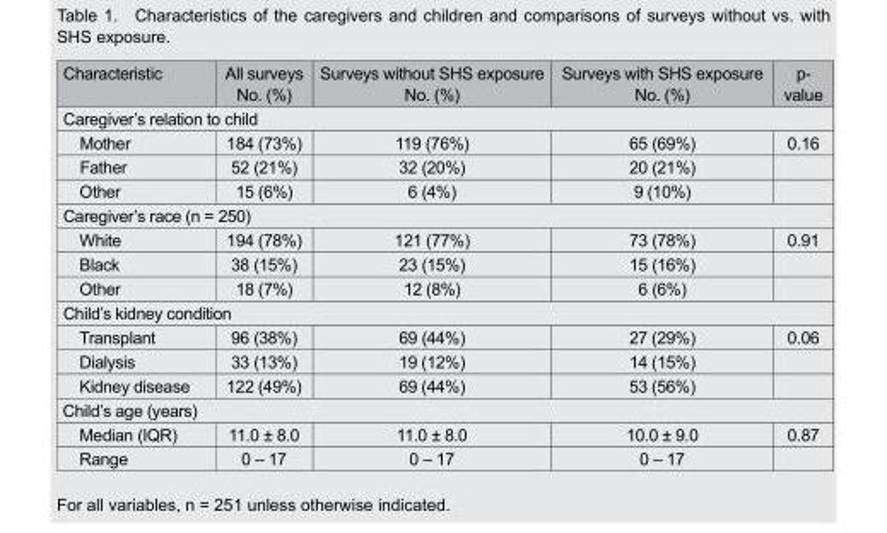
<table><thead><tr><td>Characteristic</td><td>All surveys No. (%)</td><td>Surveys without SHS exposure No. (%)</td><td>Surveys with SHS exposure No. (%)</td><td>p- value</td></tr></thead><tbody><tr><td colspan="5">Caregiver’s relation to child</td></tr><tr><td>Mother</td><td>184 (73%)</td><td>119 (76%)</td><td>65 (69%)</td><td>0.16</td></tr><tr><td>Father</td><td>52 (21%)</td><td>32 (20%)</td><td>20 (21%)</td><td></td></tr><tr><td>Other</td><td>15 (6%)</td><td>6 (4%)</td><td>9 (10%)</td><td></td></tr><tr><td colspan="5">Caregiver’s race (n = 250)</td></tr><tr><td>White</td><td>194 (78%)</td><td>121 (77%)</td><td>73 (78%)</td><td>0.91</td></tr><tr><td>Black</td><td>38 (15%)</td><td>23 (15%)</td><td>15 (16%)</td><td></td></tr><tr><td>Other</td><td>18 (7%)</td><td>12 (8%)</td><td>6 (6%)</td><td></td></tr><tr><td colspan="5">Child’s kidney condition</td></tr><tr><td>Transplant</td><td>96 (38%)</td><td>69 (44%)</td><td>27 (29%)</td><td>0.06</td></tr><tr><td>Dialysis</td><td>33 (13%)</td><td>19 (12%)</td><td>14 (15%)</td><td></td></tr><tr><td>Kidney disease</td><td>122 (49%)</td><td>69 (44%)</td><td>53 (56%)</td><td></td></tr><tr><td colspan="5">Child’s age (years)</td></tr><tr><td>Median (IQR)</td><td>11.0 ± 8.0</td><td>11.0 ± 8.0</td><td>10.0 ± 9.0</td><td>0.87</td></tr><tr><td>Range</td><td>0 – 17</td><td>0 – 17</td><td>0 – 17</td><td></td></tr></tbody></table>